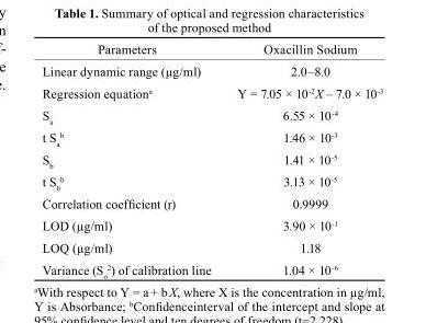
<table><thead><tr><td>Parameters</td><td>Oxacillin Sodium</td></tr></thead><tbody><tr><td>Linear dynamic range (µg/ml)</td><td>2.0–8.0</td></tr><tr><td>Regression equation<sup>a</sup></td><td>Y = 7.05 × 10<sup>-2</sup>X – 7.0 × 10<sup>-3</sup></td></tr><tr><td>S<sub>a</sub></td><td>6.55 × 10<sup>-4</sup></td></tr><tr><td>t S<sub>a</sub> b</td><td>1.46 × 10<sup>-3</sup></td></tr><tr><td>S<sub>b</sub></td><td>1.41 × 10<sup>-5</sup></td></tr><tr><td>t S<sub>b</sub> b</td><td>3.13 × 10<sup>-5</sup></td></tr><tr><td>Correlation coefficient (r)</td><td>0.9999</td></tr><tr><td>LOD (µg/ml)</td><td>3.90 × 10<sup>-1</sup></td></tr><tr><td>LOQ (µg/ml)</td><td>1.18</td></tr><tr><td>Variance (S<sub>o</sub> <sup>2</sup>) of calibration line</td><td>1.04 × 10<sup>-6</sup></td></tr></tbody></table>